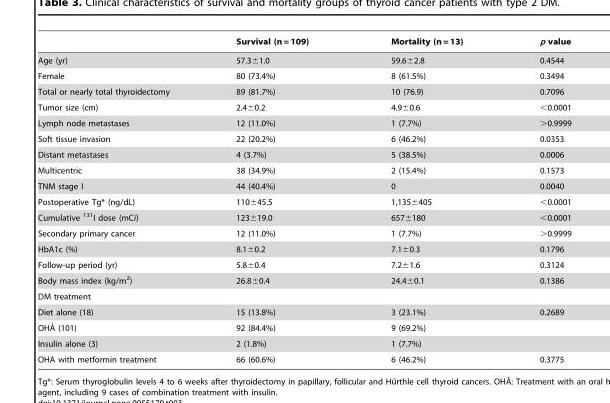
<table><thead><tr><td></td><td>Survival (n = 109)</td><td>Mortality (n = 13)</td><td>p value</td></tr></thead><tbody><tr><td>Age (yr)</td><td>57.3±1.0</td><td>59.6±2.8</td><td>0.4544</td></tr><tr><td>Female</td><td>80 (73.4%)</td><td>8 (61.5%)</td><td>0.3494</td></tr><tr><td>Total or nearly total thyroidectomy</td><td>89 (81.7%)</td><td>10 (76.9)</td><td>0.7096</td></tr><tr><td>Tumor size (cm)</td><td>2.4±0.2</td><td>4.9±0.6</td><td>&lt;0.0001</td></tr><tr><td>Lymph node metastases</td><td>12 (11.0%)</td><td>1 (7.7%)</td><td>&gt;0.9999</td></tr><tr><td>Soft tissue invasion</td><td>22 (20.2%)</td><td>6 (46.2%)</td><td>0.0353</td></tr><tr><td>Distant metastases</td><td>4 (3.7%)</td><td>5 (38.5%)</td><td>0.0006</td></tr><tr><td>Multicentric</td><td>38 (34.9%)</td><td>2 (15.4%)</td><td>0.1573</td></tr><tr><td>TNM stage I</td><td>44 (40.4%)</td><td>0</td><td>0.0040</td></tr><tr><td>Postoperative Tg* (ng/dL)</td><td>110±45.5</td><td>1,135±405</td><td>&lt;0.0001</td></tr><tr><td>Cumulative <sup>131</sup>I dose (mCi)</td><td>123±19.0</td><td>657±180</td><td>&lt;0.0001</td></tr><tr><td>Secondary primary cancer</td><td>12 (11.0%)</td><td>1 (7.7%)</td><td>&gt;0.9999</td></tr><tr><td>HbA1c (%)</td><td>8.1±0.2</td><td>7.1±0.3</td><td>0.1796</td></tr><tr><td>Follow-up period (yr)</td><td>5.8±0.4</td><td>7.2±1.6</td><td>0.3124</td></tr><tr><td>Body mass index (kg/m<sup>2</sup>)</td><td>26.8±0.4</td><td>24.4±0.1</td><td>0.1386</td></tr><tr><td colspan="4">DM treatment</td></tr><tr><td>Diet alone (18)</td><td>15 (13.8%)</td><td>3 (23.1%)</td><td>0.2689</td></tr><tr><td>OHAˆ (101)</td><td>92 (84.4%)</td><td>9 (69.2%)</td><td></td></tr><tr><td>Insulin alone (3)</td><td>2 (1.8%)</td><td>1 (7.7%)</td><td></td></tr><tr><td>OHA with metformin treatment</td><td>66 (60.6%)</td><td>6 (46.2%)</td><td>0.3775</td></tr></tbody></table>